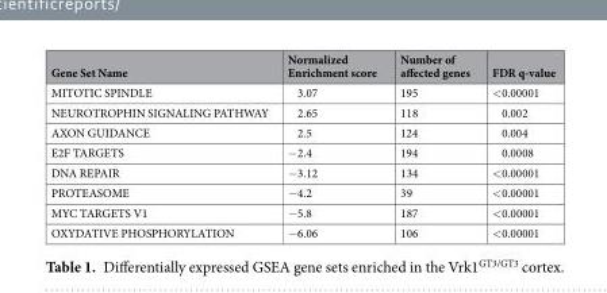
<table><thead><tr><td>Gene Set Name</td><td>Normalized Enrichment score</td><td>Number of affected genes</td><td>FDR q-value</td></tr></thead><tbody><tr><td>MITOTIC SPINDLE</td><td>3.07</td><td>195</td><td>&lt;0.00001</td></tr><tr><td>NEUROTROPHIN SIGNALING PATHWAY</td><td>2.65</td><td>118</td><td>0.002</td></tr><tr><td>AXON GUIDANCE</td><td>2.5</td><td>124</td><td>0.004</td></tr><tr><td>E2F TARGETS</td><td>−2.4</td><td>194</td><td>0.0008</td></tr><tr><td>DNA REPAIR</td><td>−3.12</td><td>134</td><td>&lt;0.00001</td></tr><tr><td>PROTEASOME</td><td>−4.2</td><td>39</td><td>&lt;0.00001</td></tr><tr><td>MYC TARGETS V1</td><td>−5.8</td><td>187</td><td>&lt;0.00001</td></tr><tr><td>OXYDATIVE PHOSPHORYLATION</td><td>−6.06</td><td>106</td><td>&lt;0.00001</td></tr></tbody></table>